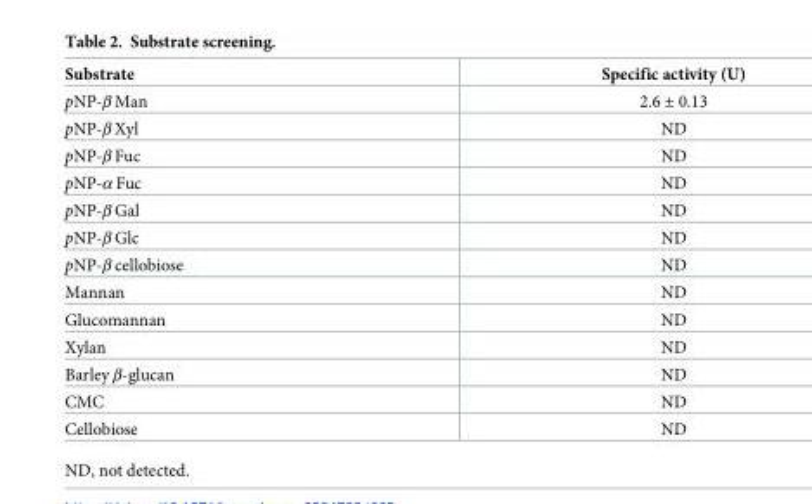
<table><thead><tr><td>Substrate</td><td>Specific activity (U)</td></tr></thead><tbody><tr><td>pNP-β Man</td><td>2.6 ± 0.13</td></tr><tr><td>pNP-β Xyl</td><td>ND</td></tr><tr><td>pNP-β Fuc</td><td>ND</td></tr><tr><td>pNP-α Fuc</td><td>ND</td></tr><tr><td>pNP-β Gal</td><td>ND</td></tr><tr><td>pNP-β Glc</td><td>ND</td></tr><tr><td>pNP-β cellobiose</td><td>ND</td></tr><tr><td>Mannan</td><td>ND</td></tr><tr><td>Glucomannan</td><td>ND</td></tr><tr><td>Xylan</td><td>ND</td></tr><tr><td>Barley β-glucan</td><td>ND</td></tr><tr><td>CMC</td><td>ND</td></tr><tr><td>Cellobiose</td><td>ND</td></tr></tbody></table>